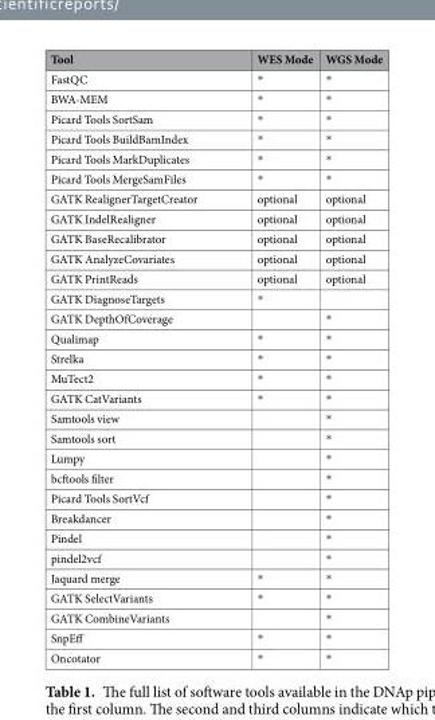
<table><thead><tr><td>Tool</td><td>WES Mode</td><td>WGS Mode</td></tr></thead><tbody><tr><td>FastQC</td><td>*</td><td>*</td></tr><tr><td>BWA-MEM</td><td>*</td><td>*</td></tr><tr><td>Picard Tools SortSam</td><td>*</td><td>*</td></tr><tr><td>Picard Tools BuildBamIndex</td><td>*</td><td>*</td></tr><tr><td>Picard Tools MarkDuplicates</td><td>*</td><td>*</td></tr><tr><td>Picard Tools MergeSamFiles</td><td>*</td><td>*</td></tr><tr><td>GATK RealignerTargetCreator</td><td>optional</td><td>optional</td></tr><tr><td>GATK IndelRealigner</td><td>optional</td><td>optional</td></tr><tr><td>GATK BaseRecalibrator</td><td>optional</td><td>optional</td></tr><tr><td>GATK AnalyzeCovariates</td><td>optional</td><td>optional</td></tr><tr><td>GATK PrintReads</td><td>optional</td><td>optional</td></tr><tr><td>GATK DiagnoseTargets</td><td>*</td><td></td></tr><tr><td>GATK DepthOfCoverage</td><td></td><td>*</td></tr><tr><td>Qualimap</td><td>*</td><td>*</td></tr><tr><td>Strelka</td><td>*</td><td>*</td></tr><tr><td>MuTect2</td><td>*</td><td>*</td></tr><tr><td>GATK CatVariants</td><td>*</td><td>*</td></tr><tr><td>Samtools view</td><td></td><td>*</td></tr><tr><td>Samtools sort</td><td></td><td>*</td></tr><tr><td>Lumpy</td><td></td><td>*</td></tr><tr><td>bcftools filter</td><td></td><td>*</td></tr><tr><td>Picard Tools SortVcf</td><td></td><td>*</td></tr><tr><td>Breakdancer</td><td></td><td>*</td></tr><tr><td>Pindel</td><td></td><td>*</td></tr><tr><td>pindel2vcf</td><td></td><td>*</td></tr><tr><td>Jaquard merge</td><td>*</td><td>*</td></tr><tr><td>GATK SelectVariants</td><td>*</td><td>*</td></tr><tr><td>GATK CombineVariants</td><td></td><td>*</td></tr><tr><td>SnpEff</td><td>*</td><td>*</td></tr><tr><td>Oncotator</td><td>*</td><td>*</td></tr></tbody></table>